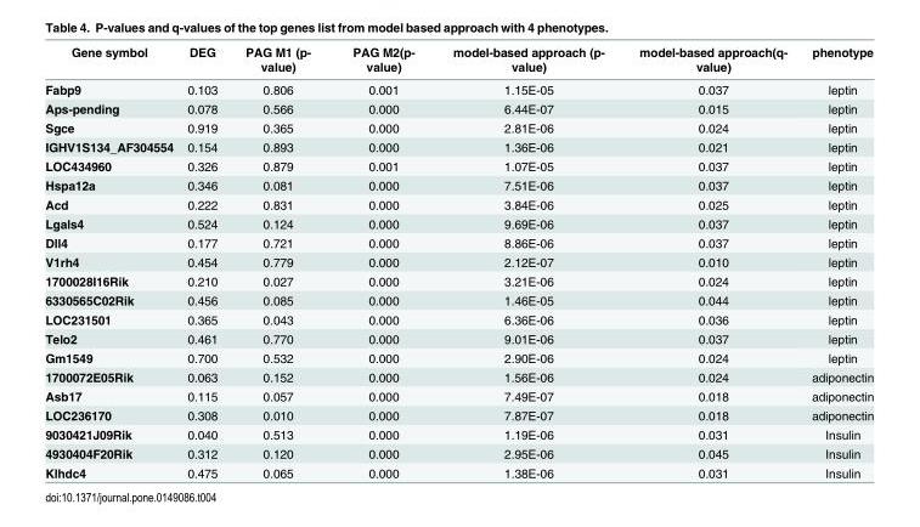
<table><thead><tr><td>Gene symbol</td><td>DEG</td><td>PAG M1 (p- value)</td><td>PAG M2(p- value)</td><td>model-based approach (p- value)</td><td>model-based approach(q- value)</td><td>phenotype</td></tr></thead><tbody><tr><td>Fabp9</td><td>0.103</td><td>0.806</td><td>0.001</td><td>1.15E-05</td><td>0.037</td><td>leptin</td></tr><tr><td>Aps-pending</td><td>0.078</td><td>0.566</td><td>0.000</td><td>6.44E-07</td><td>0.015</td><td>leptin</td></tr><tr><td>Sgce</td><td>0.919</td><td>0.365</td><td>0.000</td><td>2.81E-06</td><td>0.024</td><td>leptin</td></tr><tr><td>IGHV1S134_AF304554</td><td>0.154</td><td>0.893</td><td>0.000</td><td>1.36E-06</td><td>0.021</td><td>leptin</td></tr><tr><td>LOC434960</td><td>0.326</td><td>0.879</td><td>0.001</td><td>1.07E-05</td><td>0.037</td><td>leptin</td></tr><tr><td>Hspa12a</td><td>0.346</td><td>0.081</td><td>0.000</td><td>7.51E-06</td><td>0.037</td><td>leptin</td></tr><tr><td>Acd</td><td>0.222</td><td>0.831</td><td>0.000</td><td>3.84E-06</td><td>0.025</td><td>leptin</td></tr><tr><td>Lgals4</td><td>0.524</td><td>0.124</td><td>0.000</td><td>9.69E-06</td><td>0.037</td><td>leptin</td></tr><tr><td>Dll4</td><td>0.177</td><td>0.721</td><td>0.000</td><td>8.86E-06</td><td>0.037</td><td>leptin</td></tr><tr><td>V1rh4</td><td>0.454</td><td>0.779</td><td>0.000</td><td>2.12E-07</td><td>0.010</td><td>leptin</td></tr><tr><td>1700028I16Rik</td><td>0.210</td><td>0.027</td><td>0.000</td><td>3.21E-06</td><td>0.024</td><td>leptin</td></tr><tr><td>6330565C02Rik</td><td>0.456</td><td>0.085</td><td>0.000</td><td>1.46E-05</td><td>0.044</td><td>leptin</td></tr><tr><td>LOC231501</td><td>0.365</td><td>0.043</td><td>0.000</td><td>6.36E-06</td><td>0.036</td><td>leptin</td></tr><tr><td>Telo2</td><td>0.461</td><td>0.770</td><td>0.000</td><td>9.01E-06</td><td>0.037</td><td>leptin</td></tr><tr><td>Gm1549</td><td>0.700</td><td>0.532</td><td>0.000</td><td>2.90E-06</td><td>0.024</td><td>leptin</td></tr><tr><td>1700072E05Rik</td><td>0.063</td><td>0.152</td><td>0.000</td><td>1.56E-06</td><td>0.024</td><td>adiponectin</td></tr><tr><td>Asb17</td><td>0.115</td><td>0.057</td><td>0.000</td><td>7.49E-07</td><td>0.018</td><td>adiponectin</td></tr><tr><td>LOC236170</td><td>0.308</td><td>0.010</td><td>0.000</td><td>7.87E-07</td><td>0.018</td><td>adiponectin</td></tr><tr><td>9030421J09Rik</td><td>0.040</td><td>0.513</td><td>0.000</td><td>1.19E-06</td><td>0.031</td><td>Insulin</td></tr><tr><td>4930404F20Rik</td><td>0.312</td><td>0.120</td><td>0.000</td><td>2.95E-06</td><td>0.045</td><td>Insulin</td></tr><tr><td>Klhdc4</td><td>0.475</td><td>0.065</td><td>0.000</td><td>1.38E-06</td><td>0.031</td><td>Insulin</td></tr></tbody></table>